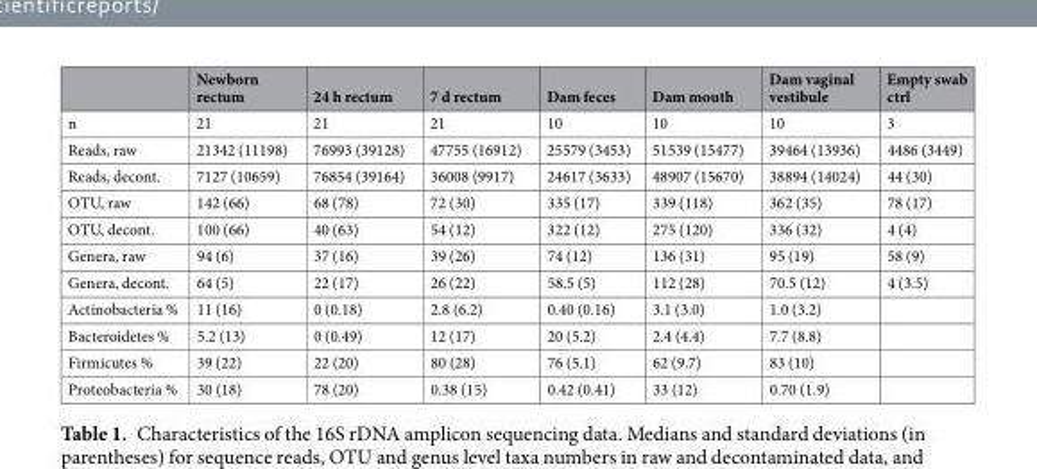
<table><thead><tr><td></td><td>Newborn rectum</td><td>24 h rectum</td><td>7 d rectum</td><td>Dam feces</td><td>Dam mouth</td><td>Dam vaginal vestibule</td><td>Empty swab ctrl</td></tr></thead><tbody><tr><td>n</td><td>21</td><td>21</td><td>21</td><td>10</td><td>10</td><td>10</td><td>3</td></tr><tr><td>Reads, raw</td><td>21342 (11198)</td><td>76993 (39128)</td><td>47755 (16912)</td><td>25579 (3453)</td><td>51539 (15477)</td><td>39464 (13936)</td><td>4486 (3449)</td></tr><tr><td>Reads, decont.</td><td>7127 (10659)</td><td>76854 (39164)</td><td>36008 (9917)</td><td>24617 (3633)</td><td>48907 (15670)</td><td>38894 (14024)</td><td>44 (30)</td></tr><tr><td>OTU, raw</td><td>142 (66)</td><td>68 (78)</td><td>72 (30)</td><td>335 (17)</td><td>339 (118)</td><td>362 (35)</td><td>78 (17)</td></tr><tr><td>OTU, decont.</td><td>100 (66)</td><td>40 (63)</td><td>54 (12)</td><td>322 (12)</td><td>275 (120)</td><td>336 (32)</td><td>4 (4)</td></tr><tr><td>Genera, raw</td><td>94 (6)</td><td>37 (16)</td><td>39 (26)</td><td>74 (12)</td><td>136 (31)</td><td>95 (19)</td><td>58 (9)</td></tr><tr><td>Genera, decont.</td><td>64 (5)</td><td>22 (17)</td><td>26 (22)</td><td>58.5 (5)</td><td>112 (28)</td><td>70.5 (12)</td><td>4 (3.5)</td></tr><tr><td>Actinobacteria %</td><td>11 (16)</td><td>0 (0.18)</td><td>2.8 (6.2)</td><td>0.40 (0.16)</td><td>3.1 (3.0)</td><td>1.0 (3.2)</td><td></td></tr><tr><td>Bacteroidetes %</td><td>5.2 (13)</td><td>0 (0.49)</td><td>12 (17)</td><td>20 (5.2)</td><td>2.4 (4.4)</td><td>7.7 (8.8)</td><td></td></tr><tr><td>Firmicutes %</td><td>39 (22)</td><td>22 (20)</td><td>80 (28)</td><td>76 (5.1)</td><td>62 (9.7)</td><td>83 (10)</td><td></td></tr><tr><td>Proteobacteria %</td><td>30 (18)</td><td>78 (20)</td><td>0.38 (15)</td><td>0.42 (0.41)</td><td>33 (12)</td><td>0.70 (1.9)</td><td></td></tr></tbody></table>